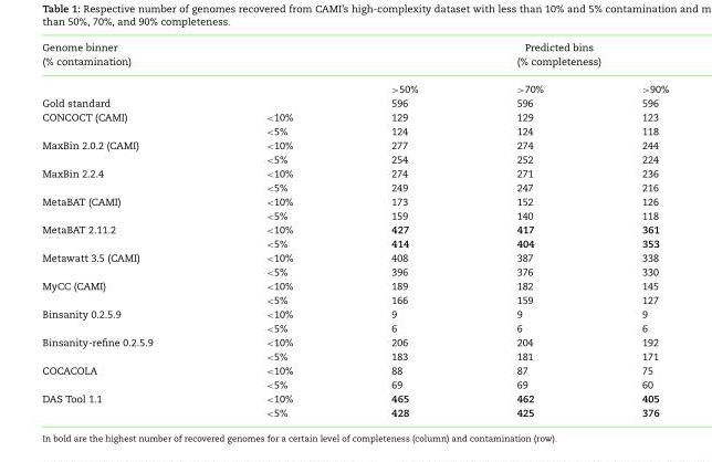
<table><thead><tr><td colspan="2">Genome binner (% contamination)</td><td colspan="3">Predicted bins (% completeness)</td></tr><tr><td></td><td></td><td>&gt;50%</td><td>&gt;70%</td><td>&gt;90%</td></tr></thead><tbody><tr><td>Gold standard</td><td></td><td>596</td><td>596</td><td>596</td></tr><tr><td rowspan="2">CONCOCT (CAMI)</td><td>&lt;10%</td><td>129</td><td>129</td><td>123</td></tr><tr><td>&lt;5%</td><td>124</td><td>124</td><td>118</td></tr><tr><td rowspan="2">MaxBin 2.0.2 (CAMI)</td><td>&lt;10%</td><td>277</td><td>274</td><td>244</td></tr><tr><td>&lt;5%</td><td>254</td><td>252</td><td>224</td></tr><tr><td rowspan="2">MaxBin 2.2.4</td><td>&lt;10%</td><td>274</td><td>271</td><td>236</td></tr><tr><td>&lt;5%</td><td>249</td><td>247</td><td>216</td></tr><tr><td rowspan="2">MetaBAT (CAMI)</td><td>&lt;10%</td><td>173</td><td>152</td><td>126</td></tr><tr><td>&lt;5%</td><td>159</td><td>140</td><td>118</td></tr><tr><td rowspan="2">MetaBAT 2.11.2</td><td>&lt;10%</td><td>427</td><td>417</td><td>361</td></tr><tr><td>&lt;5%</td><td>414</td><td>404</td><td>353</td></tr><tr><td rowspan="2">Metawatt 3.5 (CAMI)</td><td>&lt;10%</td><td>408</td><td>387</td><td>338</td></tr><tr><td>&lt;5%</td><td>396</td><td>376</td><td>330</td></tr><tr><td rowspan="2">MyCC (CAMI)</td><td>&lt;10%</td><td>189</td><td>182</td><td>145</td></tr><tr><td>&lt;5%</td><td>166</td><td>159</td><td>127</td></tr><tr><td rowspan="2">Binsanity 0.2.5.9</td><td>&lt;10%</td><td>9</td><td>9</td><td>9</td></tr><tr><td>&lt;5%</td><td>6</td><td>6</td><td>6</td></tr><tr><td rowspan="2">Binsanity-refine 0.2.5.9</td><td>&lt;10%</td><td>206</td><td>204</td><td>192</td></tr><tr><td>&lt;5%</td><td>183</td><td>181</td><td>171</td></tr><tr><td rowspan="2">COCACOLA</td><td>&lt;10%</td><td>88</td><td>87</td><td>75</td></tr><tr><td>&lt;5%</td><td>69</td><td>69</td><td>60</td></tr><tr><td rowspan="2">DAS Tool 1.1</td><td>&lt;10%</td><td>465</td><td>462</td><td>405</td></tr><tr><td>&lt;5%</td><td>428</td><td>425</td><td>376</td></tr></tbody></table>